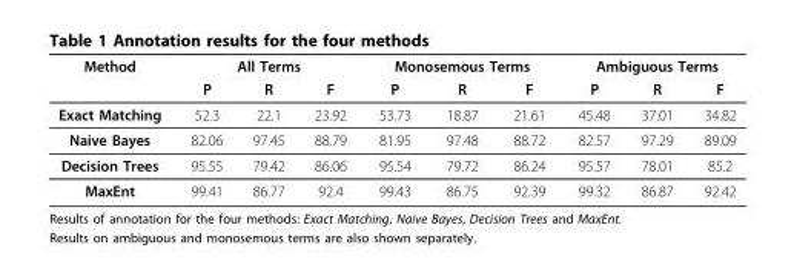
<table><thead><tr><td rowspan="2">Method</td><td colspan="3">All Terms</td><td colspan="3">Monosemous Terms</td><td colspan="3">Ambiguous Terms</td></tr><tr><td>P</td><td>R</td><td>F</td><td>P</td><td>R</td><td>F</td><td>P</td><td>R</td><td>F</td></tr></thead><tbody><tr><td>Exact Matching</td><td>52.3</td><td>22.1</td><td>23.92</td><td>53.73</td><td>18.87</td><td>21.61</td><td>45.48</td><td>37.01</td><td>34.82</td></tr><tr><td>Naive Bayes</td><td>82.06</td><td>97.45</td><td>88.79</td><td>81.95</td><td>97.48</td><td>88.72</td><td>82.57</td><td>97.29</td><td>89.09</td></tr><tr><td>Decision Trees</td><td>95.55</td><td>79.42</td><td>86.06</td><td>95.54</td><td>79.72</td><td>86.24</td><td>95.57</td><td>78.01</td><td>85.2</td></tr><tr><td>MaxEnt</td><td>99.41</td><td>86.77</td><td>92.4</td><td>99.43</td><td>86.75</td><td>92.39</td><td>99.32</td><td>86.87</td><td>92.42</td></tr></tbody></table>